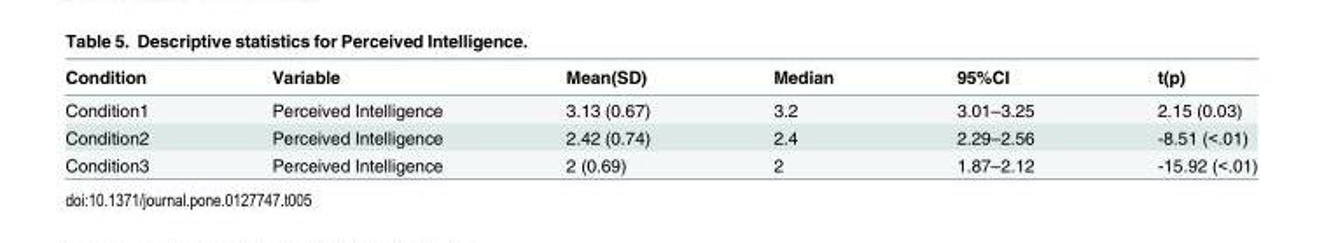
<table><thead><tr><td>Condition</td><td>Variable</td><td>Mean(SD)</td><td>Median</td><td>95%CI</td><td>t(p)</td></tr></thead><tbody><tr><td>Condition1</td><td>Perceived Intelligence</td><td>3.13 (0.67)</td><td>3.2</td><td>3.01–3.25</td><td>2.15 (0.03)</td></tr><tr><td>Condition2</td><td>Perceived Intelligence</td><td>2.42 (0.74)</td><td>2.4</td><td>2.29–2.56</td><td>-8.51 (&lt;.01)</td></tr><tr><td>Condition3</td><td>Perceived Intelligence</td><td>2 (0.69)</td><td>2</td><td>1.87–2.12</td><td>-15.92 (&lt;.01)</td></tr></tbody></table>